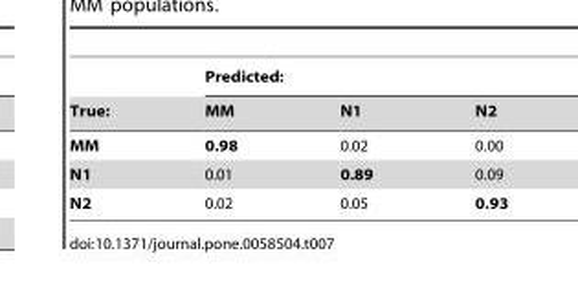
<table><thead><tr><td rowspan="2">True:</td><td colspan="3">Predicted:</td></tr><tr><td>MM</td><td>N1</td><td>N2</td></tr></thead><tbody><tr><td>MM</td><td>0.98</td><td>0.02</td><td>0.00</td></tr><tr><td>N1</td><td>0.01</td><td>0.89</td><td>0.09</td></tr><tr><td>N2</td><td>0.02</td><td>0.05</td><td>0.93</td></tr></tbody></table>